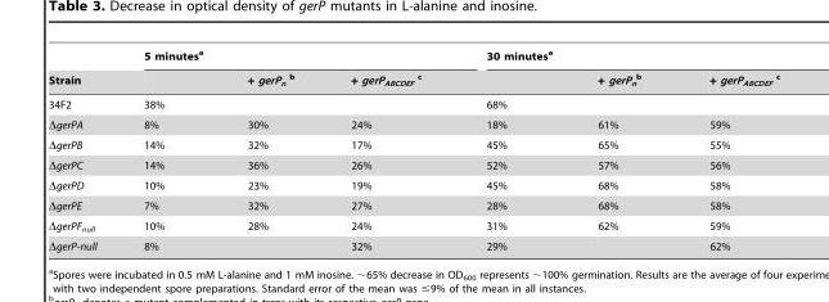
<table><thead><tr><td rowspan="2">Strain</td><td colspan="3">5 minutes<sup>a</sup></td><td colspan="3">30 minutes<sup>a</sup></td></tr><tr><td></td><td>+ gerP<sub>n</sub> b</td><td>+ gerP<sub>ABCDEF</sub> c</td><td></td><td>+ gerP<sub>n</sub> b</td><td>+ gerP<sub>ABCDEF</sub> c</td></tr></thead><tbody><tr><td>34F2</td><td>38%</td><td></td><td></td><td>68%</td><td></td><td></td></tr><tr><td>ΔgerPA</td><td>8%</td><td>30%</td><td>24%</td><td>18%</td><td>61%</td><td>59%</td></tr><tr><td>ΔgerPB</td><td>14%</td><td>32%</td><td>17%</td><td>45%</td><td>65%</td><td>55%</td></tr><tr><td>ΔgerPC</td><td>14%</td><td>36%</td><td>26%</td><td>52%</td><td>57%</td><td>56%</td></tr><tr><td>ΔgerPD</td><td>10%</td><td>23%</td><td>19%</td><td>45%</td><td>68%</td><td>58%</td></tr><tr><td>ΔgerPE</td><td>7%</td><td>32%</td><td>27%</td><td>28%</td><td>68%</td><td>58%</td></tr><tr><td>ΔgerPF<sub>null</sub></td><td>10%</td><td>28%</td><td>24%</td><td>31%</td><td>62%</td><td>59%</td></tr><tr><td>ΔgerP-null</td><td>8%</td><td></td><td>32%</td><td>29%</td><td></td><td>62%</td></tr></tbody></table>